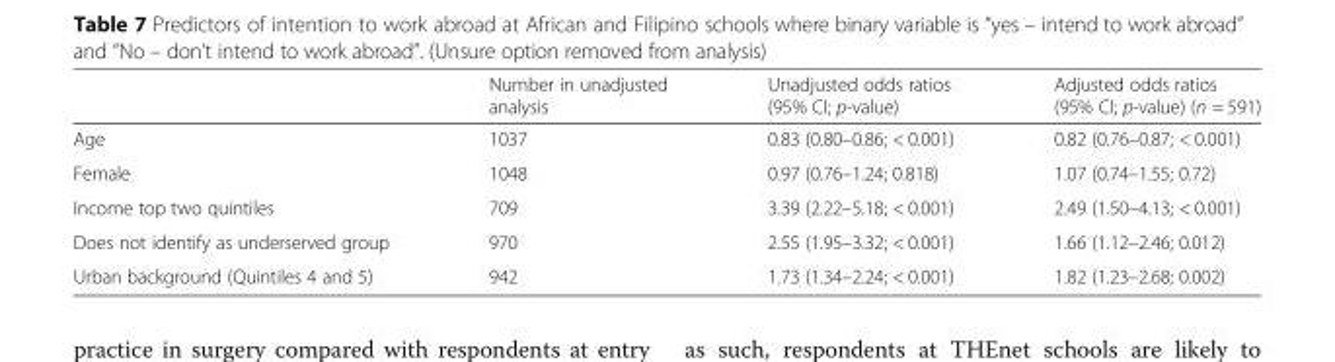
<table><thead><tr><td></td><td>Number in unadjusted analysis</td><td>Unadjusted odds ratios (95% CI; p-value)</td><td>Adjusted odds ratios (95% CI; p-value) (n = 591)</td></tr></thead><tbody><tr><td>Age</td><td>1037</td><td>0.83 (0.80–0.86; &lt; 0.001)</td><td>0.82 (0.76–0.87; &lt; 0.001)</td></tr><tr><td>Female</td><td>1048</td><td>0.97 (0.76–1.24; 0.818)</td><td>1.07 (0.74–1.55; 0.72)</td></tr><tr><td>Income top two quintiles</td><td>709</td><td>3.39 (2.22–5.18; &lt; 0.001)</td><td>2.49 (1.50–4.13; &lt; 0.001)</td></tr><tr><td>Does not identify as underserved group</td><td>970</td><td>2.55 (1.95–3.32; &lt; 0.001)</td><td>1.66 (1.12–2.46; 0.012)</td></tr><tr><td>Urban background (Quintiles 4 and 5)</td><td>942</td><td>1.73 (1.34–2.24; &lt; 0.001)</td><td>1.82 (1.23–2.68; 0.002)</td></tr></tbody></table>